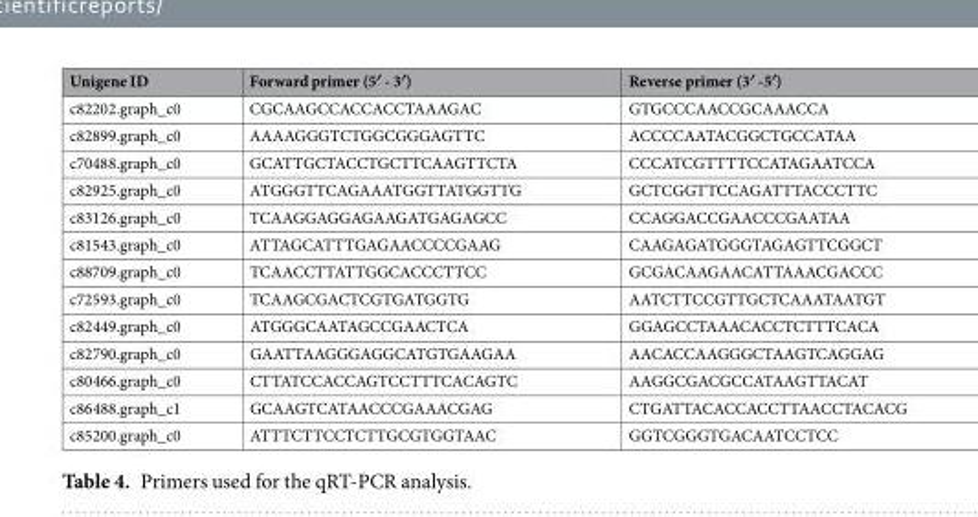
<table><thead><tr><td>Unigene ID</td><td>Forward primer (5′ - 3′)</td><td>Reverse primer (3′ -5′)</td></tr></thead><tbody><tr><td>c82202.graph_c0</td><td>CGCAAGCCACCACCTAAAGAC</td><td>GTGCCCAACCGCAAACCA</td></tr><tr><td>c82899.graph_c0</td><td>AAAAGGGTCTGGCGGGAGTTC</td><td>ACCCCAATACGGCTGCCATAA</td></tr><tr><td>c70488.graph_c0</td><td>GCATTGCTACCTGCTTCAAGTTCTA</td><td>CCCATCGTTTTCCATAGAATCCA</td></tr><tr><td>c82925.graph_c0</td><td>ATGGGTTCAGAAATGGTTATGGTTG</td><td>GCTCGGTTCCAGATTTACCCTTC</td></tr><tr><td>c83126.graph_c0</td><td>TCAAGGAGGAGAAGATGAGAGCC</td><td>CCAGGACCGAACCCGAATAA</td></tr><tr><td>c81543.graph_c0</td><td>ATTAGCATTTGAGAACCCCGAAG</td><td>CAAGAGATGGGTAGAGTTCGGCT</td></tr><tr><td>c88709.graph_c0</td><td>TCAACCTTATTGGCACCCTTCC</td><td>GCGACAAGAACATTAAACGACCC</td></tr><tr><td>c72593.graph_c0</td><td>TCAAGCGACTCGTGATGGTG</td><td>AATCTTCCGTTGCTCAAATAATGT</td></tr><tr><td>c82449.graph_c0</td><td>ATGGGCAATAGCCGAACTCA</td><td>GGAGCCTAAACACCTCTTTCACA</td></tr><tr><td>c82790.graph_c0</td><td>GAATTAAGGGAGGCATGTGAAGAA</td><td>AACACCAAGGGCTAAGTCAGGAG</td></tr><tr><td>c80466.graph_c0</td><td>CTTATCCACCAGTCCTTTCACAGTC</td><td>AAGGCGACGCCATAAGTTACAT</td></tr><tr><td>c86488.graph_c1</td><td>GCAAGTCATAACCCGAAACGAG</td><td>CTGATTACACCACCTTAACCTACACG</td></tr><tr><td>c85200.graph_c0</td><td>ATTTCTTCCTCTTGCGTGGTAAC</td><td>GGTCGGGTGACAATCCTCC</td></tr></tbody></table>